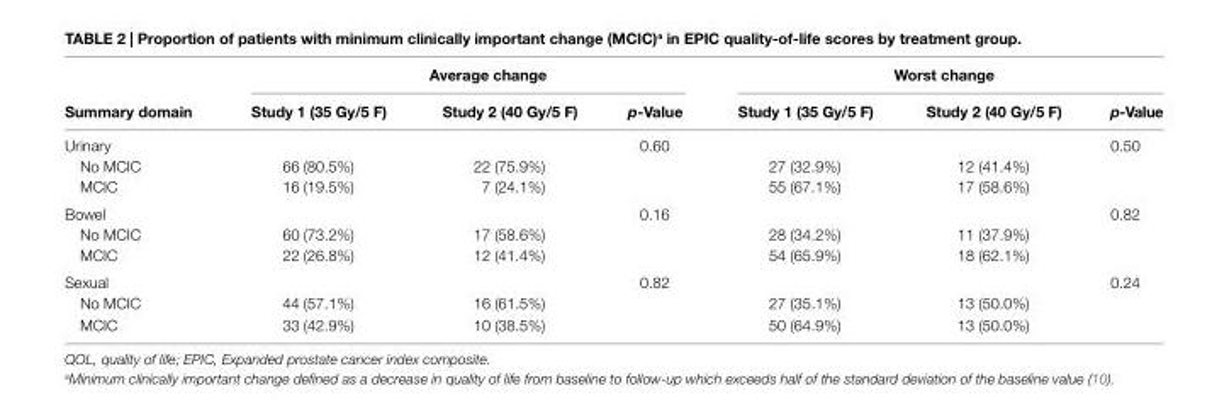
<table><thead><tr><td rowspan="2">Summary domain</td><td colspan="3">average change</td><td colspan="3">Worst change</td></tr><tr><td>Study 1 (35 Gy/5 F)</td><td>Study 2 (40 Gy/5 F)</td><td>p-Value</td><td>Study 1 (35 Gy/5 F)</td><td>Study 2 (40 Gy/5 F)</td><td>p-Value</td></tr></thead><tbody><tr><td>Urinary</td><td></td><td></td><td>0.60</td><td></td><td></td><td>0.50</td></tr><tr><td>No MCIC</td><td>66 (80.5%)</td><td>22 (75.9%)</td><td></td><td>27 (32.9%)</td><td>12 (41.4%)</td><td></td></tr><tr><td>MCIC</td><td>16 (19.5%)</td><td>7 (24.1%)</td><td></td><td>55 (67.1%)</td><td>17 (58.6%)</td><td></td></tr><tr><td>Bowel</td><td></td><td></td><td>0.16</td><td></td><td></td><td>0.82</td></tr><tr><td>No MCIC</td><td>60 (73.2%)</td><td>17 (58.6%)</td><td></td><td>28 (34.2%)</td><td>11 (37.9%)</td><td></td></tr><tr><td>MCIC</td><td>22 (26.8%)</td><td>12 (41.4%)</td><td></td><td>54 (65.9%)</td><td>18 (62.1%)</td><td></td></tr><tr><td>Sexual</td><td></td><td></td><td>0.82</td><td></td><td></td><td>0.24</td></tr><tr><td>No MCIC</td><td>44 (57.1%)</td><td>16 (61.5%)</td><td></td><td>27 (35.1%)</td><td>13 (50.0%)</td><td></td></tr><tr><td>MCIC</td><td>33 (42.9%)</td><td>10 (38.5%)</td><td></td><td>50 (64.9%)</td><td>13 (50.0%)</td><td></td></tr></tbody></table>